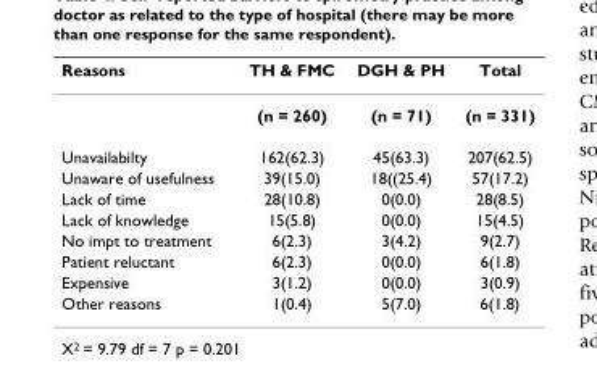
<table><thead><tr><td>Reasons</td><td>TH &amp; FMC</td><td>DGH &amp; PH</td><td>Total</td></tr></thead><tbody><tr><td></td><td>(n = 260)</td><td>(n = 71)</td><td>(n = 331)</td></tr><tr><td>Unavailabilty</td><td>162(62.3)</td><td>45(63.3)</td><td>207(62.5)</td></tr><tr><td>Unaware of usefulness</td><td>39(15.0)</td><td>18((25.4)</td><td>57(17.2)</td></tr><tr><td>Lack of time</td><td>28(10.8)</td><td>0(0.0)</td><td>28(8.5)</td></tr><tr><td>Lack of knowledge</td><td>15(5.8)</td><td>0(0.0)</td><td>15(4.5)</td></tr><tr><td>No impt to treatment</td><td>6(2.3)</td><td>3(4.2)</td><td>9(2.7)</td></tr><tr><td>Patient reluctant</td><td>6(2.3)</td><td>0(0.0)</td><td>6(1.8)</td></tr><tr><td>Expensive</td><td>3(1.2)</td><td>0(0.0)</td><td>3(0.9)</td></tr><tr><td>Other reasons</td><td>1(0.4)</td><td>5(7.0)</td><td>6(1.8)</td></tr></tbody></table>